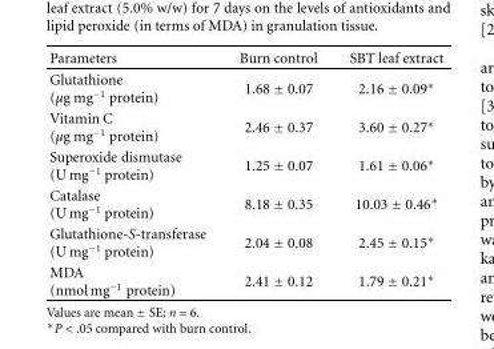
<table><thead><tr><td>Parameters</td><td>Burn control</td><td>SBT leaf extract</td></tr></thead><tbody><tr><td>Glutathione (μg mg<sup>−1</sup> protein)</td><td>1.68 ± 0.07</td><td>2.16 ± 0.09∗</td></tr><tr><td>Vitamin C (μg mg<sup>−1</sup> protein)</td><td>2.46 ± 0.37</td><td>3.60 ± 0.27∗</td></tr><tr><td>Superoxide dismutase (U mg<sup>−1</sup> protein)</td><td>1.25 ± 0.07</td><td>1.61 ± 0.06∗</td></tr><tr><td>Catalase (U mg<sup>−1</sup> protein)</td><td>8.18 ± 0.35</td><td>10.03 ± 0.46∗</td></tr><tr><td>Glutathione-S-transferase (U mg<sup>−1</sup> protein)</td><td>2.04 ± 0.08</td><td>2.45 ± 0.15∗</td></tr><tr><td>MDA (nmolmg<sup>−1</sup> protein)</td><td>2.41 ± 0.12</td><td>1.79 ± 0.21∗</td></tr></tbody></table>